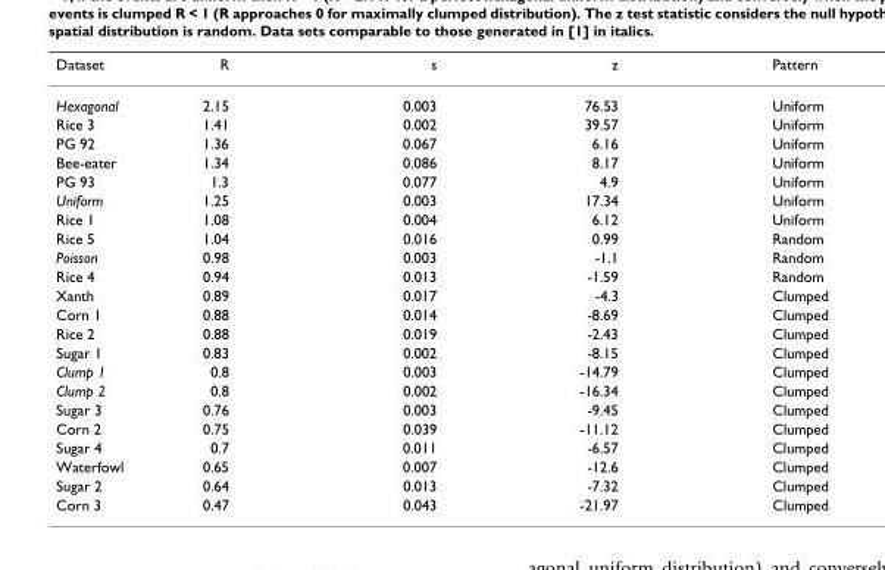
<table><thead><tr><td>Dataset</td><td>R</td><td>s</td><td>z</td><td>Pattern</td></tr></thead><tbody><tr><td>Hexagonal</td><td>2.15</td><td>0.003</td><td>76.53</td><td>Uniform</td></tr><tr><td>Rice 3</td><td>1.41</td><td>0.002</td><td>39.57</td><td>Uniform</td></tr><tr><td>PG 92</td><td>1.36</td><td>0.067</td><td>6.16</td><td>Uniform</td></tr><tr><td>Bee-eater</td><td>1.34</td><td>0.086</td><td>8.17</td><td>Uniform</td></tr><tr><td>PG 93</td><td>1.3</td><td>0.077</td><td>4.9</td><td>Uniform</td></tr><tr><td>Uniform</td><td>1.25</td><td>0.003</td><td>17.34</td><td>Uniform</td></tr><tr><td>Rice 1</td><td>1.08</td><td>0.004</td><td>6.12</td><td>Uniform</td></tr><tr><td>Rice 5</td><td>1.04</td><td>0.016</td><td>0.99</td><td>Random</td></tr><tr><td>Poisson</td><td>0.98</td><td>0.003</td><td>-1.1</td><td>Random</td></tr><tr><td>Rice 4</td><td>0.94</td><td>0.013</td><td>-1.59</td><td>Random</td></tr><tr><td>Xanth</td><td>0.89</td><td>0.017</td><td>-4.3</td><td>Clumped</td></tr><tr><td>Corn 1</td><td>0.88</td><td>0.014</td><td>-8.69</td><td>Clumped</td></tr><tr><td>Rice 2</td><td>0.88</td><td>0.019</td><td>-2.43</td><td>Clumped</td></tr><tr><td>Sugar 1</td><td>0.83</td><td>0.002</td><td>-8.15</td><td>Clumped</td></tr><tr><td>Clump 1</td><td>0.8</td><td>0.003</td><td>-14.79</td><td>Clumped</td></tr><tr><td>Clump 2</td><td>0.8</td><td>0.002</td><td>-16.34</td><td>Clumped</td></tr><tr><td>Sugar 3</td><td>0.76</td><td>0.003</td><td>-9.45</td><td>Clumped</td></tr><tr><td>Corn 2</td><td>0.75</td><td>0.039</td><td>-11.12</td><td>Clumped</td></tr><tr><td>Sugar 4</td><td>0.7</td><td>0.011</td><td>-6.57</td><td>Clumped</td></tr><tr><td>Waterfowl</td><td>0.65</td><td>0.007</td><td>-12.6</td><td>Clumped</td></tr><tr><td>Sugar 2</td><td>0.64</td><td>0.013</td><td>-7.32</td><td>Clumped</td></tr><tr><td>Corn 3</td><td>0.47</td><td>0.043</td><td>-21.97</td><td>Clumped</td></tr></tbody></table>